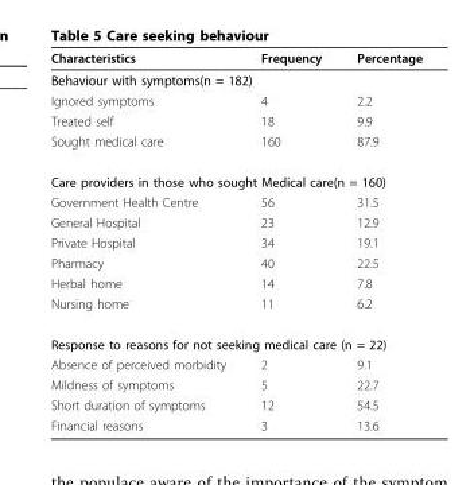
<table><thead><tr><td>Characteristics</td><td>Frequency</td><td>Percentage</td></tr></thead><tbody><tr><td colspan="3">Behaviour with symptoms(n = 182)</td></tr><tr><td>Ignored symptoms</td><td>4</td><td>2.2</td></tr><tr><td>Treated self</td><td>18</td><td>9.9</td></tr><tr><td>Sought medical care</td><td>160</td><td>87.9</td></tr><tr><td colspan="3">Care providers in those who sought Medical care(n = 160)</td></tr><tr><td>Government Health Centre</td><td>56</td><td>31.5</td></tr><tr><td>General Hospital</td><td>23</td><td>12.9</td></tr><tr><td>Private Hospital</td><td>34</td><td>19.1</td></tr><tr><td>Pharmacy</td><td>40</td><td>22.5</td></tr><tr><td>Herbal home</td><td>14</td><td>7.8</td></tr><tr><td>Nursing home</td><td>11</td><td>6.2</td></tr><tr><td colspan="3">Response to reasons for not seeking medical care (n = 22)</td></tr><tr><td>Absence of perceived morbidity</td><td>2</td><td>9.1</td></tr><tr><td>Mildness of symptoms</td><td>5</td><td>22.7</td></tr><tr><td>Short duration of symptoms</td><td>12</td><td>54.5</td></tr><tr><td>Financial reasons</td><td>3</td><td>13.6</td></tr></tbody></table>